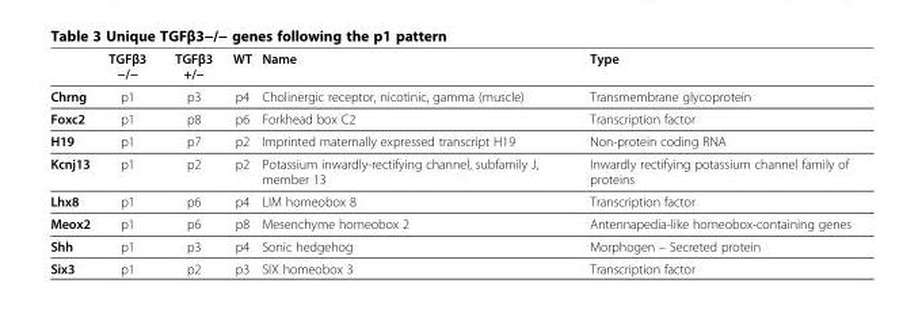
<table><thead><tr><td></td><td>TGFβ3 −/−</td><td>TGFβ3 +/−</td><td>WT</td><td>Name</td><td>Type</td></tr></thead><tbody><tr><td>Chrng</td><td>p1</td><td>p3</td><td>p4</td><td>Cholinergic receptor, nicotinic, gamma (muscle)</td><td>Transmembrane glycoprotein</td></tr><tr><td>Foxc2</td><td>p1</td><td>p8</td><td>p6</td><td>Forkhead box C2</td><td>Transcription factor</td></tr><tr><td>H19</td><td>p1</td><td>p7</td><td>p2</td><td>Imprinted maternally expressed transcript H19</td><td>Non-protein coding RNA</td></tr><tr><td>Kcnj13</td><td>p1</td><td>p2</td><td>p2</td><td>Potassium inwardly-rectifying channel, subfamily J, member 13</td><td>Inwardly rectifying potassium channel family of proteins</td></tr><tr><td>Lhx8</td><td>p1</td><td>p6</td><td>p4</td><td>LIM homeobox 8</td><td>Transcription factor</td></tr><tr><td>Meox2</td><td>p1</td><td>p6</td><td>p8</td><td>Mesenchyme homeobox 2</td><td>Antennapedia-like homeobox-containing genes</td></tr><tr><td>Shh</td><td>p1</td><td>p3</td><td>p4</td><td>Sonic hedgehog</td><td>Morphogen – Secreted protein</td></tr><tr><td>Six3</td><td>p1</td><td>p2</td><td>p3</td><td>SIX homeobox 3</td><td>Transcription factor</td></tr></tbody></table>